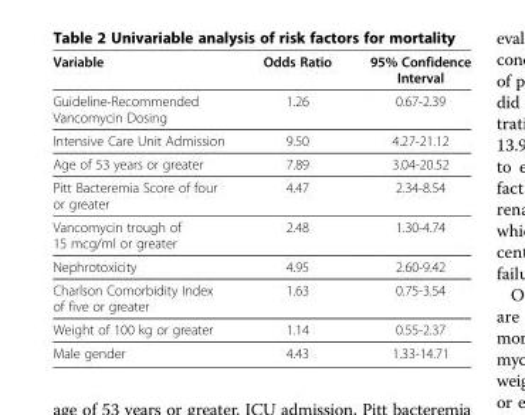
<table><thead><tr><td>Variable</td><td>Odds Ratio</td><td>95% Confidence Interval</td></tr></thead><tbody><tr><td>Guideline-Recommended Vancomycin Dosing</td><td>1.26</td><td>0.67-2.39</td></tr><tr><td>Intensive Care Unit Admission</td><td>9.50</td><td>4.27-21.12</td></tr><tr><td>Age of 53 years or greater</td><td>7.89</td><td>3.04-20.52</td></tr><tr><td>Pitt Bacteremia Score of four or greater</td><td>4.47</td><td>2.34-8.54</td></tr><tr><td>Vancomycin trough of 15 mcg/ml or greater</td><td>2.48</td><td>1.30-4.74</td></tr><tr><td>Nephrotoxicity</td><td>4.95</td><td>2.60-9.42</td></tr><tr><td>Charlson Comorbidity Index of five or greater</td><td>1.63</td><td>0.75-3.54</td></tr><tr><td>Weight of 100 kg or greater</td><td>1.14</td><td>0.55-2.37</td></tr><tr><td>Male gender</td><td>4.43</td><td>1.33-14.71</td></tr></tbody></table>